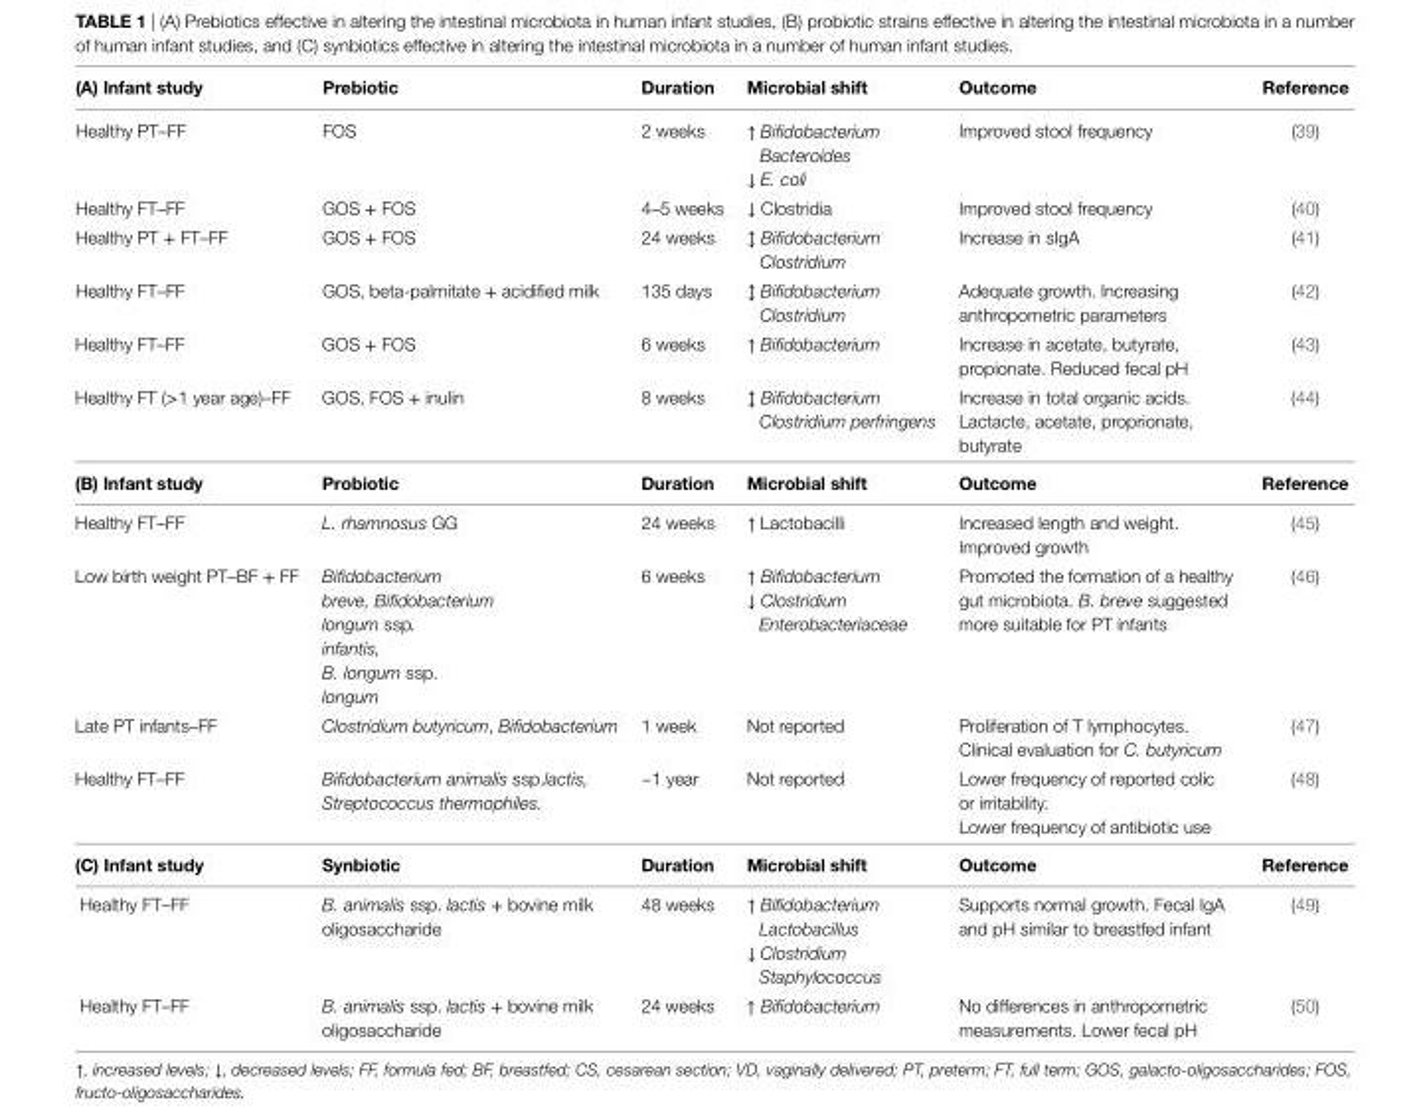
<table><thead><tr><td>(a) infant study</td><td>Prebiotic</td><td>Duration</td><td>Microbial shift</td><td>Outcome</td><td>Reference</td></tr></thead><tbody><tr><td>Healthy PT–FF</td><td>FOS</td><td>2 weeks</td><td>↑ Bifidobacterium Bacteroides ↓ E. coli</td><td>Improved stool frequency</td><td>(39)</td></tr><tr><td>Healthy FT–FF</td><td>GOS + FOS</td><td>4–5 weeks</td><td>↓ Clostridia</td><td>Improved stool frequency</td><td>(40)</td></tr><tr><td>Healthy PT + FT–FF</td><td>GOS + FOS</td><td>24 weeks</td><td>↕ Bifidobacterium Clostridium</td><td>Increase in sIgA</td><td>(41)</td></tr><tr><td>Healthy FT–FF</td><td>GOS, beta-palmitate + acidified milk</td><td>135 days</td><td>↕ Bifidobacterium Clostridium</td><td>Adequate growth. Increasing anthropometric parameters</td><td>(42)</td></tr><tr><td>Healthy FT–FF</td><td>GOS + FOS</td><td>6 weeks</td><td>↑ Bifidobacterium</td><td>Increase in acetate, butyrate, propionate. Reduced fecal pH</td><td>(43)</td></tr><tr><td>Healthy FT (&gt;1 year age)–FF</td><td>GOS, FOS + inulin</td><td>8 weeks</td><td>↕ Bifidobacterium Clostridium perfringens</td><td>Increase in total organic acids. Lactacte, acetate, proprionate, butyrate</td><td>(44)</td></tr><tr><td>(B) infant study</td><td>Probiotic</td><td>Duration</td><td>Microbial shift</td><td>Outcome</td><td>Reference</td></tr><tr><td>Healthy FT–FF</td><td>L. rhamnosus GG</td><td>24 weeks</td><td>↑ Lactobacilli</td><td>Increased length and weight. Improved growth</td><td>(45)</td></tr><tr><td>Low birth weight PT–BF + FF</td><td>Bifidobacterium breve, Bifidobacterium longum ssp. infantis, B. longum ssp. longum</td><td>6 weeks</td><td>↑ Bifidobacterium ↓ Clostridium Enterobacteriaceae</td><td>Promoted the formation of a healthy gut microbiota. B. breve suggested more suitable for PT infants</td><td>(46)</td></tr><tr><td>Late PT infants–FF</td><td>Clostridium butyricum, Bifidobacterium</td><td>1 week</td><td>Not reported</td><td>Proliferation of T lymphocytes. Clinical evaluation for C. butyricum</td><td>(47)</td></tr><tr><td>Healthy FT–FF</td><td>Bifidobacterium animalis ssp.lactis, Streptococcus thermophiles.</td><td>~1 year</td><td>Not reported</td><td>Lower frequency of reported colic or irritability. Lower frequency of antibiotic use</td><td>(48)</td></tr><tr><td>(C) infant study</td><td>Synbiotic</td><td>Duration</td><td>Microbial shift</td><td>Outcome</td><td>Reference</td></tr><tr><td>Healthy FT–FF</td><td>B. animalis ssp. lactis + bovine milk oligosaccharide</td><td>48 weeks</td><td>↑ Bifidobacterium Lactobacillus ↓ Clostridium Staphylococcus</td><td>Supports normal growth. Fecal IgA and pH similar to breastfed infant</td><td>(49)</td></tr><tr><td>Healthy FT–FF</td><td>B. animalis ssp. lactis + bovine milk oligosaccharide</td><td>24 weeks</td><td>↑ Bifidobacterium</td><td>No differences in anthropometric measurements. Lower fecal pH</td><td>(50)</td></tr></tbody></table>